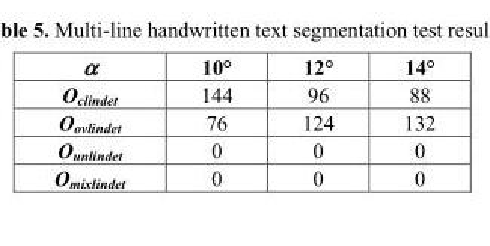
<table><thead><tr><td>α</td><td>10°</td><td>12°</td><td>14°</td></tr></thead><tbody><tr><td>O<sub>clindet</sub></td><td>144</td><td>96</td><td>88</td></tr><tr><td>O<sub>ovlindet</sub></td><td>76</td><td>124</td><td>132</td></tr><tr><td>O<sub>unlindet</sub></td><td>0</td><td>0</td><td>0</td></tr><tr><td>O<sub>mixlindet</sub></td><td>0</td><td>0</td><td>0</td></tr></tbody></table>